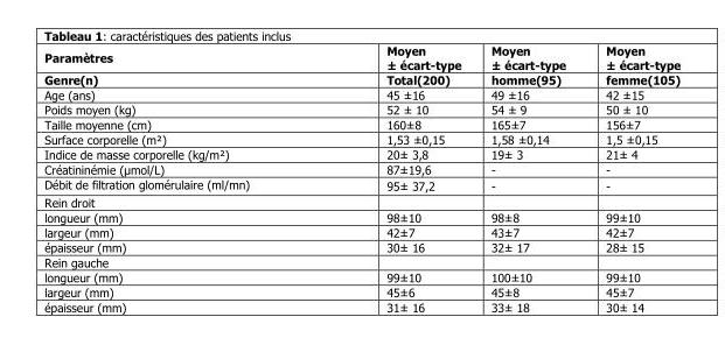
<table><thead><tr><td rowspan="2">Paramètres Genre(n)</td><td rowspan="2">Moyen ± écart-type Total(200)</td><td rowspan="2">Moyen ± écart-type homme(95)</td><td rowspan="2">Moyen ± écart-type femme(105)</td></tr><tr></tr></thead><tbody><tr><td>Age (ans)</td><td>45 ±16</td><td>49 ±16</td><td>42 ±15</td></tr><tr><td>Poids moyen (kg)</td><td>52 ± 10</td><td>54 ± 9</td><td>50 ± 10</td></tr><tr><td>Taille moyenne (cm)</td><td>160±8</td><td>165±7</td><td>156±7</td></tr><tr><td>Surface corporelle (m²)</td><td>1,53 ±0,15</td><td>1,58 ±0,14</td><td>1,5 ±0,15</td></tr><tr><td>Indice de masse corporelle (kg/m²)</td><td>20± 3,8</td><td>19± 3</td><td>21± 4</td></tr><tr><td>Créatininémie (µmol/L)</td><td>87±19,6</td><td>-</td><td>-</td></tr><tr><td>Débit de filtration glomérulaire (ml/mn)</td><td>95± 37,2</td><td>-</td><td>-</td></tr><tr><td colspan="4">Rein droit</td></tr><tr><td>longueur (mm)</td><td>98±10</td><td>98±8</td><td>99±10</td></tr><tr><td>largeur (mm)</td><td>42±7</td><td>43±7</td><td>42±7</td></tr><tr><td>épaisseur (mm)</td><td>30± 16</td><td>32± 17</td><td>28± 15</td></tr><tr><td colspan="4">Rein gauche</td></tr><tr><td>longueur (mm)</td><td>99±10</td><td>100±10</td><td>99±10</td></tr><tr><td>largeur (mm)</td><td>45±6</td><td>45±8</td><td>45±7</td></tr><tr><td>épaisseur (mm)</td><td>31± 16</td><td>33± 18</td><td>30± 14</td></tr></tbody></table>